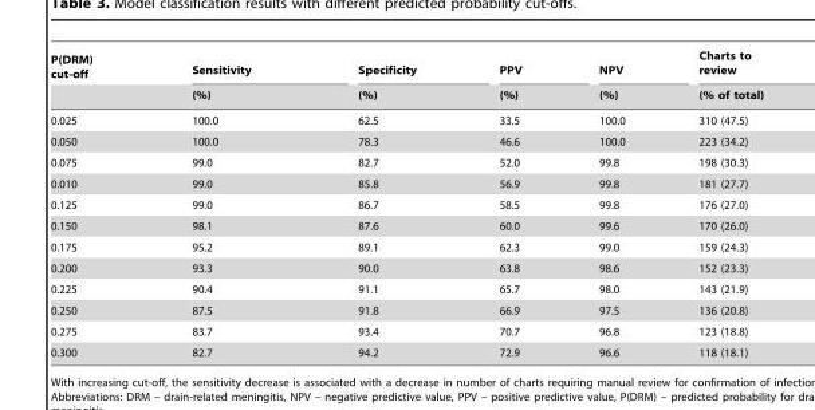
<table><thead><tr><td rowspan="2">P(DRM) cut-off</td><td rowspan="2">Sensitivity (%)</td><td rowspan="2">Specificity (%)</td><td rowspan="2">PPV (%)</td><td rowspan="2">NPV (%)</td><td rowspan="2">Charts to review (% of total)</td></tr><tr></tr></thead><tbody><tr><td>0.025</td><td>100.0</td><td>62.5</td><td>33.5</td><td>100.0</td><td>310 (47.5)</td></tr><tr><td>0.050</td><td>100.0</td><td>78.3</td><td>46.6</td><td>100.0</td><td>223 (34.2)</td></tr><tr><td>0.075</td><td>99.0</td><td>82.7</td><td>52.0</td><td>99.8</td><td>198 (30.3)</td></tr><tr><td>0.010</td><td>99.0</td><td>85.8</td><td>56.9</td><td>99.8</td><td>181 (27.7)</td></tr><tr><td>0.125</td><td>99.0</td><td>86.7</td><td>58.5</td><td>99.8</td><td>176 (27.0)</td></tr><tr><td>0.150</td><td>98.1</td><td>87.6</td><td>60.0</td><td>99.6</td><td>170 (26.0)</td></tr><tr><td>0.175</td><td>95.2</td><td>89.1</td><td>62.3</td><td>99.0</td><td>159 (24.3)</td></tr><tr><td>0.200</td><td>93.3</td><td>90.0</td><td>63.8</td><td>98.6</td><td>152 (23.3)</td></tr><tr><td>0.225</td><td>90.4</td><td>91.1</td><td>65.7</td><td>98.0</td><td>143 (21.9)</td></tr><tr><td>0.250</td><td>87.5</td><td>91.8</td><td>66.9</td><td>97.5</td><td>136 (20.8)</td></tr><tr><td>0.275</td><td>83.7</td><td>93.4</td><td>70.7</td><td>96.8</td><td>123 (18.8)</td></tr><tr><td>0.300</td><td>82.7</td><td>94.2</td><td>72.9</td><td>96.6</td><td>118 (18.1)</td></tr></tbody></table>